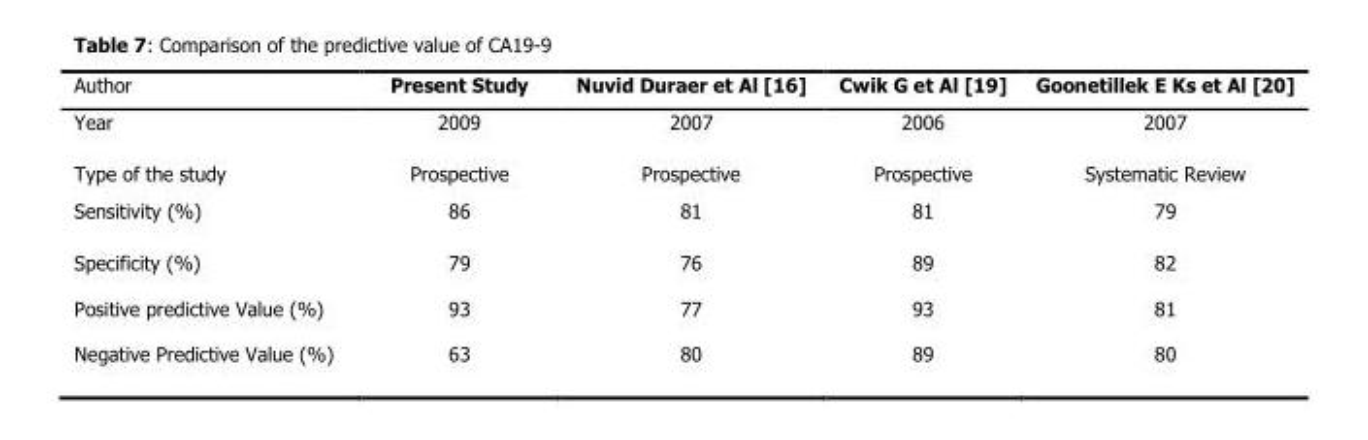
<table><thead><tr><td>Author</td><td>Present Study</td><td>Nuvid Duraer et Al [16]</td><td>Cwik G et Al [19]</td><td>Goonetillek E Ks et Al [20]</td></tr></thead><tbody><tr><td>Year</td><td>2009</td><td>2007</td><td>2006</td><td>2007</td></tr><tr><td>Type of the study</td><td>Prospective</td><td>Prospective</td><td>Prospective</td><td>Systematic Review</td></tr><tr><td>Sensitivity (%)</td><td>86</td><td>81</td><td>81</td><td>79</td></tr><tr><td>Specificity (%)</td><td>79</td><td>76</td><td>89</td><td>82</td></tr><tr><td>Positive predictive Value (%)</td><td>93</td><td>77</td><td>93</td><td>81</td></tr><tr><td>Negative Predictive Value (%)</td><td>63</td><td>80</td><td>89</td><td>80</td></tr></tbody></table>